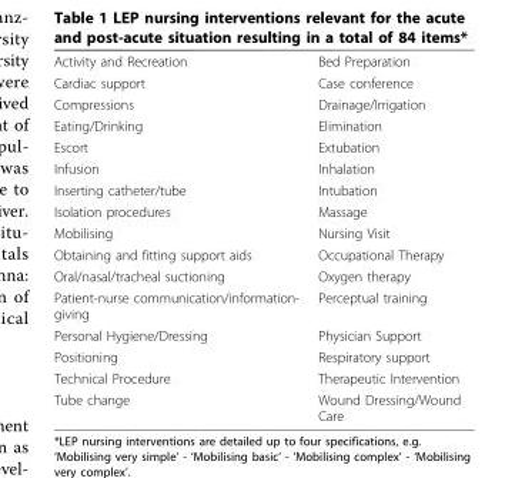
<table><tbody><tr><td>Activity and Recreation</td><td>Bed Preparation</td></tr><tr><td>Cardiac support</td><td>Case conference</td></tr><tr><td>Compressions</td><td>Drainage/Irrigation</td></tr><tr><td>Eating/Drinking</td><td>Elimination</td></tr><tr><td>Escort</td><td>Extubation</td></tr><tr><td>Infusion</td><td>Inhalation</td></tr><tr><td>Inserting catheter/tube</td><td>Intubation</td></tr><tr><td>Isolation procedures</td><td>Massage</td></tr><tr><td>Mobilising</td><td>Nursing Visit</td></tr><tr><td>Obtaining and fitting support aids</td><td>Occupational Therapy</td></tr><tr><td>Oral/nasal/tracheal suctioning</td><td>Oxygen therapy</td></tr><tr><td>Patient-nurse communication/information- giving</td><td>Perceptual training</td></tr><tr><td>Personal Hygiene/Dressing</td><td>Physician Support</td></tr><tr><td>Positioning</td><td>Respiratory support</td></tr><tr><td>Technical Procedure</td><td>Therapeutic Intervention</td></tr><tr><td>Tube change</td><td>Wound Dressing/Wound Care</td></tr></tbody></table>